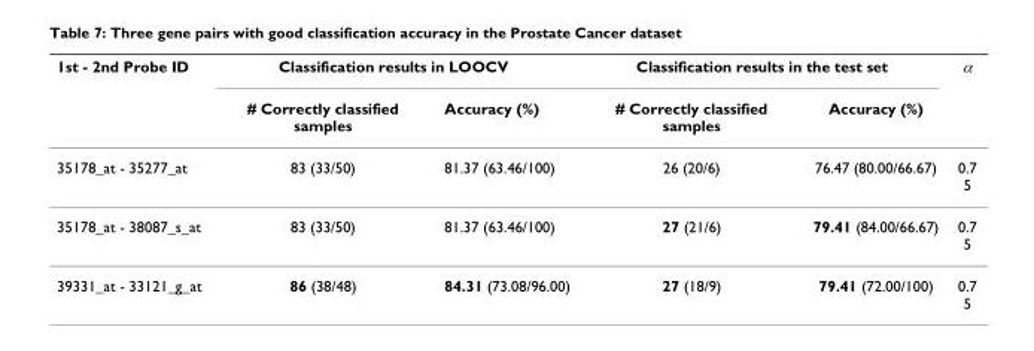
<table><thead><tr><td rowspan="2">1st - 2nd Probe ID</td><td colspan="2">Classification results in LOOCV</td><td colspan="2">Classification results in the test set</td><td rowspan="2">α</td></tr><tr><td># Correctly classified samples</td><td>Accuracy (%)</td><td># Correctly classified samples</td><td>Accuracy (%)</td></tr></thead><tbody><tr><td>35178_at - 35277_at</td><td>83 (33/50)</td><td>81.37 (63.46/100)</td><td>26 (20/6)</td><td>76.47 (80.00/66.67)</td><td>0.7 5</td></tr><tr><td>35178_at - 38087_s_at</td><td>83 (33/50)</td><td>81.37 (63.46/100)</td><td>27 (21/6)</td><td>79.41 (84.00/66.67)</td><td>0.7 5</td></tr><tr><td>39331_at - 33121_g_at</td><td>86 (38/48)</td><td>84.31 (73.08/96.00)</td><td>27 (18/9)</td><td>79.41 (72.00/100)</td><td>0.7</td></tr></tbody></table>